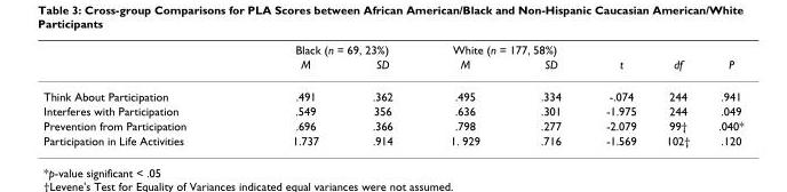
<table><thead><tr><td rowspan="2"></td><td colspan="2">Black (n = 69, 23%)</td><td colspan="2">White (n = 177, 58%)</td><td rowspan="2">t</td><td rowspan="2">df</td><td rowspan="2">P</td></tr><tr><td>M</td><td>SD</td><td>M</td><td>SD</td></tr></thead><tbody><tr><td>Think About Participation</td><td>.491</td><td>.362</td><td>.495</td><td>.334</td><td>-.074</td><td>244</td><td>.941</td></tr><tr><td>Interferes with Participation</td><td>.549</td><td>356</td><td>.636</td><td>.301</td><td>-1.975</td><td>244</td><td>.049</td></tr><tr><td>Prevention from Participation</td><td>.696</td><td>.366</td><td>.798</td><td>.277</td><td>-2.079</td><td>99†</td><td>.040*</td></tr><tr><td>Participation in Life Activities</td><td>1.737</td><td>.914</td><td>1. 929</td><td>.716</td><td>-1.569</td><td>102†</td><td>.120</td></tr></tbody></table>